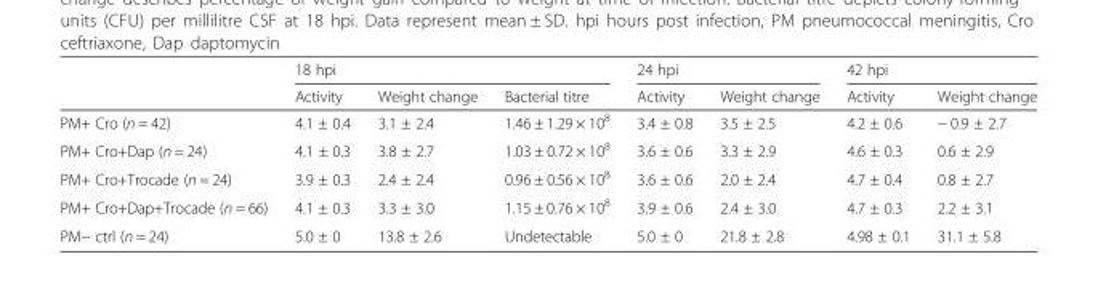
<table><thead><tr><td rowspan="2"></td><td colspan="3">18 hpi</td><td colspan="2">24 hpi</td><td colspan="2">42 hpi</td></tr><tr><td>Activity</td><td>Weight change</td><td>Bacterial titre</td><td>Activity</td><td>Weight change</td><td>Activity</td><td>Weight change</td></tr></thead><tbody><tr><td>PM+ Cro (n = 42)</td><td>4.1 ± 0.4</td><td>3.1 ± 2.4</td><td>1.46 ± 1.29 × 10<sup>8</sup></td><td>3.4 ± 0.8</td><td>3.5 ± 2.5</td><td>4.2 ± 0.6</td><td>− 0.9 ± 2.7</td></tr><tr><td>PM+ Cro+Dap (n = 24)</td><td>4.1 ± 0.3</td><td>3.8 ± 2.7</td><td>1.03 ± 0.72 × 10<sup>8</sup></td><td>3.6 ± 0.6</td><td>3.3 ± 2.9</td><td>4.6 ± 0.3</td><td>0.6 ± 2.9</td></tr><tr><td>PM+ Cro+Trocade (n = 24)</td><td>3.9 ± 0.3</td><td>2.4 ± 2.4</td><td>0.96 ± 0.56 × 10<sup>8</sup></td><td>3.6 ± 0.6</td><td>2.0 ± 2.4</td><td>4.7 ± 0.4</td><td>0.8 ± 2.7</td></tr><tr><td>PM+ Cro+Dap+Trocade (n = 66)</td><td>4.1 ± 0.3</td><td>3.3 ± 3.0</td><td>1.15 ± 0.76 × 10<sup>8</sup></td><td>3.9 ± 0.6</td><td>2.4 ± 3.0</td><td>4.7 ± 0.3</td><td>2.2 ± 3.1</td></tr><tr><td>PM− ctrl (n = 24)</td><td>5.0 ± 0</td><td>13.8 ± 2.6</td><td>Undetectable</td><td>5.0 ± 0</td><td>21.8 ± 2.8</td><td>4.98 ± 0.1</td><td>31.1 ± 5.8</td></tr></tbody></table>